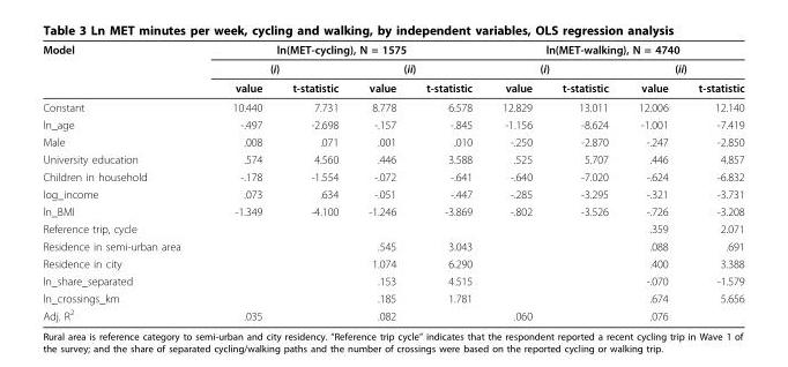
<table><thead><tr><td rowspan="3">Model</td><td colspan="4">ln(MET-cycling), N = 1575</td><td colspan="4">ln(MET-walking), N = 4740</td></tr><tr><td colspan="2">(i)</td><td colspan="2">(ii)</td><td colspan="2">(i)</td><td colspan="2">(ii)</td></tr><tr><td>value</td><td>t-statistic</td><td>value</td><td>t-statistic</td><td>value</td><td>t-statistic</td><td>value</td><td>t-statistic</td></tr></thead><tbody><tr><td>Constant</td><td>10.440</td><td>7.731</td><td>8.778</td><td>6.578</td><td>12.829</td><td>13.011</td><td>12.006</td><td>12.140</td></tr><tr><td>ln_age</td><td>-.497</td><td>-2.698</td><td>-.157</td><td>-.845</td><td>-1.156</td><td>-8.624</td><td>-1.001</td><td>-7.419</td></tr><tr><td>Male</td><td>.008</td><td>.071</td><td>.001</td><td>.010</td><td>-.250</td><td>-2.870</td><td>-.247</td><td>-2.850</td></tr><tr><td>University education</td><td>.574</td><td>4.560</td><td>.446</td><td>3.588</td><td>.525</td><td>5.707</td><td>.446</td><td>4.857</td></tr><tr><td>Children in household</td><td>-.178</td><td>-1.554</td><td>-.072</td><td>-.641</td><td>-.640</td><td>-7.020</td><td>-.624</td><td>-6.832</td></tr><tr><td>log_income</td><td>.073</td><td>.634</td><td>-.051</td><td>-.447</td><td>-.285</td><td>-3.295</td><td>-.321</td><td>-3.731</td></tr><tr><td>ln_BMI</td><td>-1.349</td><td>-4.100</td><td>-1.246</td><td>-3.869</td><td>-.802</td><td>-3.526</td><td>-.726</td><td>-3.208</td></tr><tr><td>Reference trip, cycle</td><td></td><td></td><td></td><td></td><td></td><td></td><td>.359</td><td>2.071</td></tr><tr><td>Residence in semi-urban area</td><td></td><td></td><td>.545</td><td>3.043</td><td></td><td></td><td>.088</td><td>.691</td></tr><tr><td>Residence in city</td><td></td><td></td><td>1.074</td><td>6.290</td><td></td><td></td><td>.400</td><td>3.388</td></tr><tr><td>ln_share_separated</td><td></td><td></td><td>.153</td><td>4.515</td><td></td><td></td><td>-.070</td><td>-1.579</td></tr><tr><td>ln_crossings_km</td><td></td><td></td><td>.185</td><td>1.781</td><td></td><td></td><td>.674</td><td>5.656</td></tr><tr><td>Adj. R<sup>2</sup></td><td>.035</td><td></td><td>.082</td><td></td><td>.060</td><td></td><td>.076</td><td></td></tr></tbody></table>